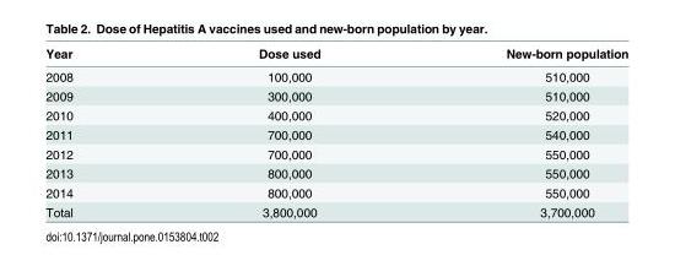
<table><thead><tr><td>Year</td><td>Dose used</td><td>New-born population</td></tr></thead><tbody><tr><td>2008</td><td>100,000</td><td>510,000</td></tr><tr><td>2009</td><td>300,000</td><td>510,000</td></tr><tr><td>2010</td><td>400,000</td><td>520,000</td></tr><tr><td>2011</td><td>700,000</td><td>540,000</td></tr><tr><td>2012</td><td>700,000</td><td>550,000</td></tr><tr><td>2013</td><td>800,000</td><td>550,000</td></tr><tr><td>2014</td><td>800,000</td><td>550,000</td></tr><tr><td>Total</td><td>3,800,000</td><td>3,700,000</td></tr></tbody></table>